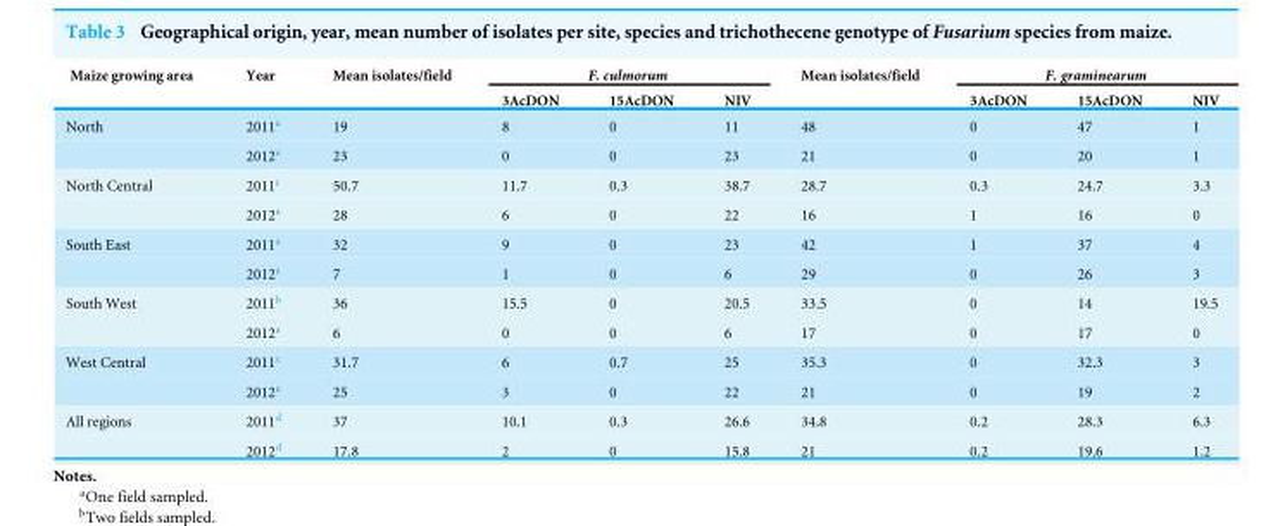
<table><thead><tr><td rowspan="2">Maize growing area</td><td rowspan="2">Year</td><td rowspan="2">Mean isolates/field</td><td colspan="3">F. culmorum</td><td rowspan="2">Mean isolates/field</td><td colspan="3">F. graminearum</td></tr><tr><td>3AcDON</td><td>15AcDON</td><td>NIV</td><td>3AcDON</td><td>15AcDON</td><td>NIV</td></tr></thead><tbody><tr><td rowspan="2">North</td><td>2011<sup>a</sup></td><td>19</td><td>8</td><td>0</td><td>11</td><td>48</td><td>0</td><td>47</td><td>1</td></tr><tr><td>2012<sup>a</sup></td><td>23</td><td>0</td><td>0</td><td>23</td><td>21</td><td>0</td><td>20</td><td>1</td></tr><tr><td rowspan="2">North Central</td><td>2011<sup>c</sup></td><td>50.7</td><td>11.7</td><td>0.3</td><td>38.7</td><td>28.7</td><td>0.3</td><td>24.7</td><td>3.3</td></tr><tr><td>2012<sup>a</sup></td><td>28</td><td>6</td><td>0</td><td>22</td><td>16</td><td>1</td><td>16</td><td>0</td></tr><tr><td rowspan="2">South East</td><td>2011<sup>a</sup></td><td>32</td><td>9</td><td>0</td><td>23</td><td>42</td><td>1</td><td>37</td><td>4</td></tr><tr><td>2012<sup>a</sup></td><td>7</td><td>1</td><td>0</td><td>6</td><td>29</td><td>0</td><td>26</td><td>3</td></tr><tr><td rowspan="2">South West</td><td>2011<sup>b</sup></td><td>36</td><td>15.5</td><td>0</td><td>20.5</td><td>33.5</td><td>0</td><td>14</td><td>19.5</td></tr><tr><td>2012<sup>a</sup></td><td>6</td><td>0</td><td>0</td><td>6</td><td>17</td><td>0</td><td>17</td><td>0</td></tr><tr><td rowspan="2">West Central</td><td>2011<sup>c</sup></td><td>31.7</td><td>6</td><td>0.7</td><td>25</td><td>35.3</td><td>0</td><td>32.3</td><td>3</td></tr><tr><td>2012<sup>a</sup></td><td>25</td><td>3</td><td>0</td><td>22</td><td>21</td><td>0</td><td>19</td><td>2</td></tr><tr><td rowspan="2">All regions</td><td>2011<sup>d</sup></td><td>37</td><td>10.1</td><td>0.3</td><td>26.6</td><td>34.8</td><td>0.2</td><td>28.3</td><td>6.3</td></tr><tr><td>2012<sup>d</sup></td><td>17.8</td><td>2</td><td>0</td><td>15.8</td><td>21</td><td>0.2</td><td>19.6</td><td>1.2</td></tr></tbody></table>